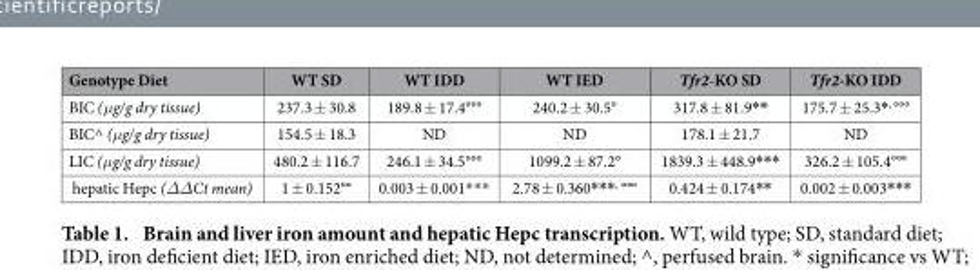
<table><thead><tr><td>Genotype Diet</td><td>WT SD</td><td>WT IDD</td><td>WT IED</td><td>Tfr2-KO SD</td><td>Tfr2-KO IDD</td></tr></thead><tbody><tr><td>BIC (μg/g dry tissue)</td><td>237.3 ± 30.8</td><td>189.8 ± 17.4°°°</td><td>240.2 ± 30.5°</td><td>317.8 ± 81.9**</td><td>175.7 ± 25.3*, °°°</td></tr><tr><td>BIC^ (μg/g dry tissue)</td><td>154.5 ± 18.3</td><td>ND</td><td>ND</td><td>178.1 ± 21.7</td><td>ND</td></tr><tr><td>LIC (μg/g dry tissue)</td><td>480.2 ± 116.7</td><td>246.1 ± 34.5°°°</td><td>1099.2 ± 87.2°</td><td>1839.3 ± 448.9***</td><td>326.2 ± 105.4°°°</td></tr><tr><td>hepatic Hepc (ΔΔCt mean)</td><td>1 ± 0.152°°</td><td>0.003 ± 0.001* * *</td><td>2.78 ± 0.360***, °°°</td><td>0.424 ± 0.174**</td><td>0.002 ± 0.003***</td></tr></tbody></table>